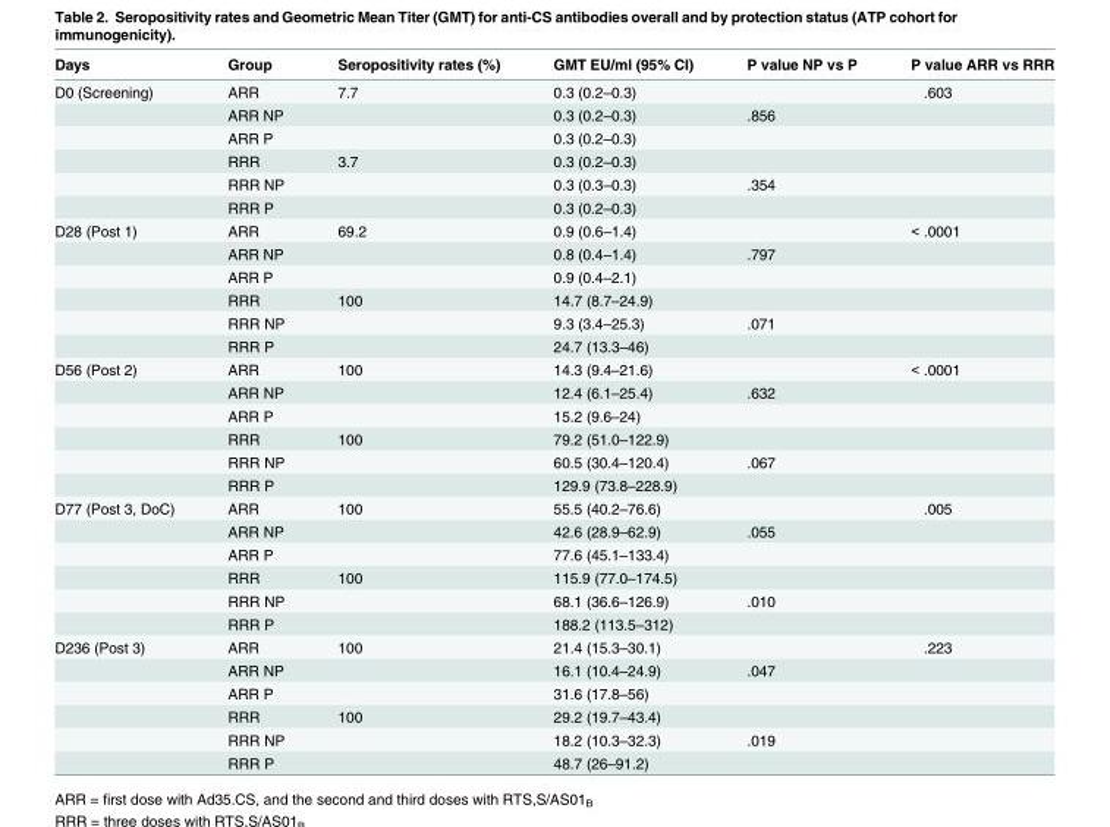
<table><thead><tr><td>Days</td><td>Group</td><td>Seropositivity rates (%)</td><td>GMT EU/ml (95% CI)</td><td>P value NP vs P</td><td>P value ARR vs RRR</td></tr></thead><tbody><tr><td rowspan="6">D0 (Screening)</td><td>ARR</td><td>7.7</td><td>0.3 (0.2–0.3)</td><td></td><td>.603</td></tr><tr><td>ARR NP</td><td></td><td>0.3 (0.2–0.3)</td><td>.856</td><td></td></tr><tr><td>ARR P</td><td></td><td>0.3 (0.2–0.3)</td><td></td><td></td></tr><tr><td>RRR</td><td>3.7</td><td>0.3 (0.2–0.3)</td><td></td><td></td></tr><tr><td>RRR NP</td><td></td><td>0.3 (0.3–0.3)</td><td>.354</td><td></td></tr><tr><td>RRR P</td><td></td><td>0.3 (0.2–0.3)</td><td></td><td></td></tr><tr><td rowspan="6">D28 (Post 1)</td><td>ARR</td><td>69.2</td><td>0.9 (0.6–1.4)</td><td></td><td>&lt; .0001</td></tr><tr><td>ARR NP</td><td></td><td>0.8 (0.4–1.4)</td><td>.797</td><td></td></tr><tr><td>ARR P</td><td></td><td>0.9 (0.4–2.1)</td><td></td><td></td></tr><tr><td>RRR</td><td>100</td><td>14.7 (8.7–24.9)</td><td></td><td></td></tr><tr><td>RRR NP</td><td></td><td>9.3 (3.4–25.3)</td><td>.071</td><td></td></tr><tr><td>RRR P</td><td></td><td>24.7 (13.3–46)</td><td></td><td></td></tr><tr><td rowspan="6">D56 (Post 2)</td><td>ARR</td><td>100</td><td>14.3 (9.4–21.6)</td><td></td><td>&lt; .0001</td></tr><tr><td>ARR NP</td><td></td><td>12.4 (6.1–25.4)</td><td>.632</td><td></td></tr><tr><td>ARR P</td><td></td><td>15.2 (9.6–24)</td><td></td><td></td></tr><tr><td>RRR</td><td>100</td><td>79.2 (51.0–122.9)</td><td></td><td></td></tr><tr><td>RRR NP</td><td></td><td>60.5 (30.4–120.4)</td><td>.067</td><td></td></tr><tr><td>RRR P</td><td></td><td>129.9 (73.8–228.9)</td><td></td><td></td></tr><tr><td rowspan="6">D77 (Post 3, DoC)</td><td>ARR</td><td>100</td><td>55.5 (40.2–76.6)</td><td></td><td>.005</td></tr><tr><td>ARR NP</td><td></td><td>42.6 (28.9–62.9)</td><td>.055</td><td></td></tr><tr><td>ARR P</td><td></td><td>77.6 (45.1–133.4)</td><td></td><td></td></tr><tr><td>RRR</td><td>100</td><td>115.9 (77.0–174.5)</td><td></td><td></td></tr><tr><td>RRR NP</td><td></td><td>68.1 (36.6–126.9)</td><td>.010</td><td></td></tr><tr><td>RRR P</td><td></td><td>188.2 (113.5–312)</td><td></td><td></td></tr><tr><td rowspan="6">D236 (Post 3)</td><td>ARR</td><td>100</td><td>21.4 (15.3–30.1)</td><td></td><td>.223</td></tr><tr><td>ARR NP</td><td></td><td>16.1 (10.4–24.9)</td><td>.047</td><td></td></tr><tr><td>ARR P</td><td></td><td>31.6 (17.8–56)</td><td></td><td></td></tr><tr><td>RRR</td><td>100</td><td>29.2 (19.7–43.4)</td><td></td><td></td></tr><tr><td>RRR NP</td><td></td><td>18.2 (10.3–32.3)</td><td>.019</td><td></td></tr><tr><td>RRR P</td><td></td><td>48.7 (26–91.2)</td><td></td><td></td></tr></tbody></table>